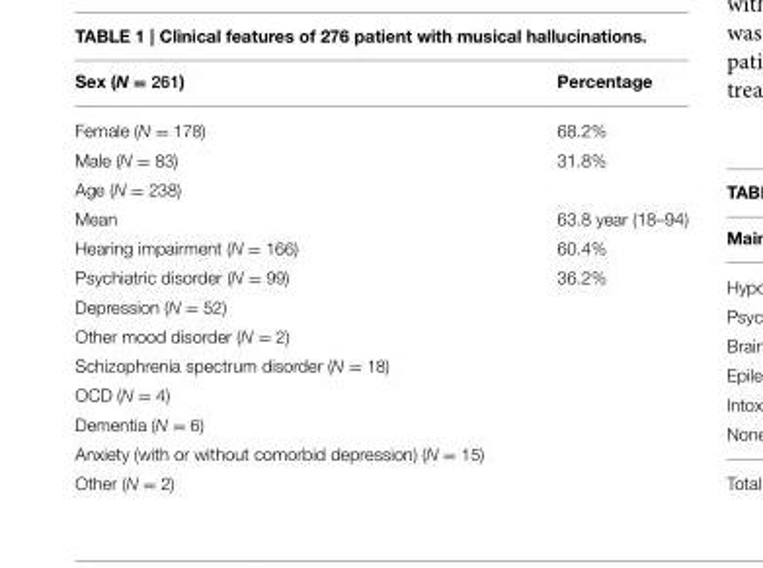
<table><thead><tr><td>Sex (N = 261)</td><td>Percentage</td></tr></thead><tbody><tr><td>Female (N = 178)</td><td>68.2%</td></tr><tr><td>Male (N = 83)</td><td>31.8%</td></tr><tr><td colspan="2">Age (N = 238)</td></tr><tr><td>Mean</td><td>63.8 year (18–94)</td></tr><tr><td>Hearing impairment (N = 166)</td><td>60.4%</td></tr><tr><td>Psychiatric disorder (N = 99)</td><td>36.2%</td></tr><tr><td colspan="2">Depression (N = 52)</td></tr><tr><td colspan="2">Other mood disorder (N = 2)</td></tr><tr><td colspan="2">Schizophrenia spectrum disorder (N = 18)</td></tr><tr><td colspan="2">OCD (N = 4)</td></tr><tr><td colspan="2">Dementia (N = 6)</td></tr><tr><td colspan="2">Anxiety (with or without comorbid depression) (N = 15)</td></tr><tr><td>Other (N = 2)</td><td></td></tr></tbody></table>